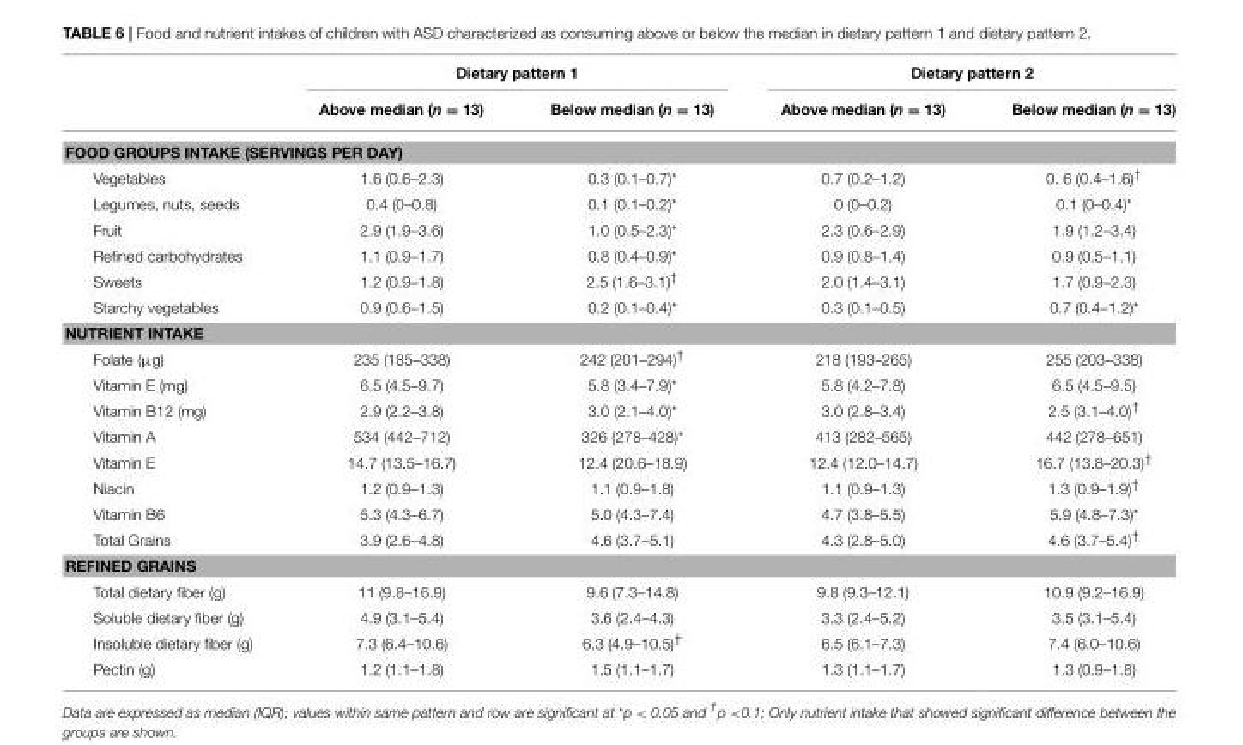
<table><thead><tr><td rowspan="2"></td><td colspan="2">Dietary pattern 1</td><td colspan="2">Dietary pattern 2</td></tr><tr><td>Above median (n = 13)</td><td>Below median (n = 13)</td><td>Above median (n = 13)</td><td>Below median (n = 13)</td></tr></thead><tbody><tr><td colspan="5">FOOD GROUPS INTAKE (SERVINGS PER DAY)</td></tr><tr><td>Vegetables</td><td>1.6 (0.6–2.3)</td><td>0.3 (0.1–0.7)*</td><td>0.7 (0.2–1.2)</td><td>0. 6 (0.4–1.6)<sup>†</sup></td></tr><tr><td>Legumes, nuts, seeds</td><td>0.4 (0–0.8)</td><td>0.1 (0.1–0.2)*</td><td>0 (0–0.2)</td><td>0.1 (0–0.4)*</td></tr><tr><td>Fruit</td><td>2.9 (1.9–3.6)</td><td>1.0 (0.5–2.3)*</td><td>2.3 (0.6–2.9)</td><td>1.9 (1.2–3.4)</td></tr><tr><td>Refined carbohydrates</td><td>1.1 (0.9–1.7)</td><td>0.8 (0.4–0.9)*</td><td>0.9 (0.8–1.4)</td><td>0.9 (0.5–1.1)</td></tr><tr><td>Sweets</td><td>1.2 (0.9–1.8)</td><td>2.5 (1.6–3.1)<sup>†</sup></td><td>2.0 (1.4–3.1)</td><td>1.7 (0.9–2.3)</td></tr><tr><td>Starchy vegetables</td><td>0.9 (0.6–1.5)</td><td>0.2 (0.1–0.4)*</td><td>0.3 (0.1–0.5)</td><td>0.7 (0.4–1.2)*</td></tr><tr><td colspan="5">NUTRIENT INTAKE</td></tr><tr><td>Folate (µg)</td><td>235 (185–338)</td><td>242 (201–294)<sup>†</sup></td><td>218 (193–265)</td><td>255 (203–338)</td></tr><tr><td>Vitamin E (mg)</td><td>6.5 (4.5–9.7)</td><td>5.8 (3.4–7.9)*</td><td>5.8 (4.2–7.8)</td><td>6.5 (4.5–9.5)</td></tr><tr><td>Vitamin B12 (mg)</td><td>2.9 (2.2–3.8)</td><td>3.0 (2.1–4.0)*</td><td>3.0 (2.8–3.4)</td><td>2.5 (3.1–4.0)<sup>†</sup></td></tr><tr><td>Vitamin A</td><td>534 (442–712)</td><td>326 (278–428)*</td><td>413 (282–565)</td><td>442 (278–651)</td></tr><tr><td>Vitamin E</td><td>14.7 (13.5–16.7)</td><td>12.4 (20.6–18.9)</td><td>12.4 (12.0–14.7)</td><td>16.7 (13.8–20.3)<sup>†</sup></td></tr><tr><td>Niacin</td><td>1.2 (0.9–1.3)</td><td>1.1 (0.9–1.8)</td><td>1.1 (0.9–1.3)</td><td>1.3 (0.9–1.9)<sup>†</sup></td></tr><tr><td>Vitamin B6</td><td>5.3 (4.3–6.7)</td><td>5.0 (4.3–7.4)</td><td>4.7 (3.8–5.5)</td><td>5.9 (4.8–7.3)*</td></tr><tr><td>Total Grains</td><td>3.9 (2.6–4.8)</td><td>4.6 (3.7–5.1)</td><td>4.3 (2.8–5.0)</td><td>4.6 (3.7–5.4)<sup>†</sup></td></tr><tr><td colspan="5">REFINED GRAINS</td></tr><tr><td>Total dietary fiber (g)</td><td>11 (9.8–16.9)</td><td>9.6 (7.3–14.8)</td><td>9.8 (9.3–12.1)</td><td>10.9 (9.2–16.9)</td></tr><tr><td>Soluble dietary fiber (g)</td><td>4.9 (3.1–5.4)</td><td>3.6 (2.4–4.3)</td><td>3.3 (2.4–5.2)</td><td>3.5 (3.1–5.4)</td></tr><tr><td>Insoluble dietary fiber (g)</td><td>7.3 (6.4–10.6)</td><td>6.3 (4.9–10.5)<sup>†</sup></td><td>6.5 (6.1–7.3)</td><td>7.4 (6.0–10.6)</td></tr><tr><td>Pectin (g)</td><td>1.2 (1.1–1.8)</td><td>1.5 (1.1–1.7)</td><td>1.3 (1.1–1.7)</td><td>1.3 (0.9–1.8)</td></tr></tbody></table>